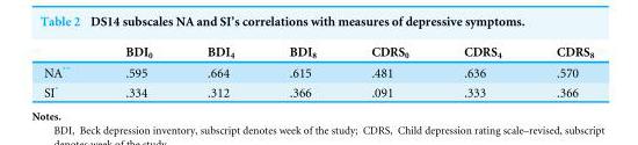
<table><thead><tr><td></td><td>BDI<sub>0</sub></td><td>BDI<sub>4</sub></td><td>BDI<sub>8</sub></td><td>CDRS<sub>0</sub></td><td>CDRS<sub>4</sub></td><td>CDRS<sub>8</sub></td></tr></thead><tbody><tr><td>NA**</td><td>.595</td><td>.664</td><td>.615</td><td>.481</td><td>.636</td><td>.570</td></tr><tr><td>SI*</td><td>.334</td><td>.312</td><td>.366</td><td>.091</td><td>.333</td><td>.366</td></tr></tbody></table>